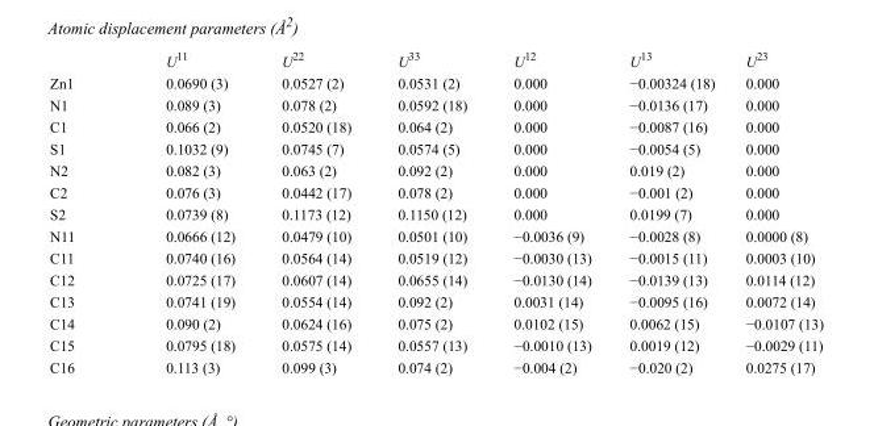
<table><thead><tr><td></td><td>U<sup>11</sup></td><td>U<sup>22</sup></td><td>U<sup>33</sup></td><td>U<sup>12</sup></td><td>U<sup>13</sup></td><td>U<sup>23</sup></td></tr></thead><tbody><tr><td>Zn1</td><td>0.0690 (3)</td><td>0.0527 (2)</td><td>0.0531 (2)</td><td>0.000</td><td>−0.00324 (18)</td><td>0.000</td></tr><tr><td>N1</td><td>0.089 (3)</td><td>0.078 (2)</td><td>0.0592 (18)</td><td>0.000</td><td>−0.0136 (17)</td><td>0.000</td></tr><tr><td>C1</td><td>0.066 (2)</td><td>0.0520 (18)</td><td>0.064 (2)</td><td>0.000</td><td>−0.0087 (16)</td><td>0.000</td></tr><tr><td>S1</td><td>0.1032 (9)</td><td>0.0745 (7)</td><td>0.0574 (5)</td><td>0.000</td><td>−0.0054 (5)</td><td>0.000</td></tr><tr><td>N2</td><td>0.082 (3)</td><td>0.063 (2)</td><td>0.092 (2)</td><td>0.000</td><td>0.019 (2)</td><td>0.000</td></tr><tr><td>C2</td><td>0.076 (3)</td><td>0.0442 (17)</td><td>0.078 (2)</td><td>0.000</td><td>−0.001 (2)</td><td>0.000</td></tr><tr><td>S2</td><td>0.0739 (8)</td><td>0.1173 (12)</td><td>0.1150 (12)</td><td>0.000</td><td>0.0199 (7)</td><td>0.000</td></tr><tr><td>N11</td><td>0.0666 (12)</td><td>0.0479 (10)</td><td>0.0501 (10)</td><td>−0.0036 (9)</td><td>−0.0028 (8)</td><td>0.0000 (8)</td></tr><tr><td>C11</td><td>0.0740 (16)</td><td>0.0564 (14)</td><td>0.0519 (12)</td><td>−0.0030 (13)</td><td>−0.0015 (11)</td><td>0.0003 (10)</td></tr><tr><td>C12</td><td>0.0725 (17)</td><td>0.0607 (14)</td><td>0.0655 (14)</td><td>−0.0130 (14)</td><td>−0.0139 (13)</td><td>0.0114 (12)</td></tr><tr><td>C13</td><td>0.0741 (19)</td><td>0.0554 (14)</td><td>0.092 (2)</td><td>0.0031 (14)</td><td>−0.0095 (16)</td><td>0.0072 (14)</td></tr><tr><td>C14</td><td>0.090 (2)</td><td>0.0624 (16)</td><td>0.075 (2)</td><td>0.0102 (15)</td><td>0.0062 (15)</td><td>−0.0107 (13)</td></tr><tr><td>C15</td><td>0.0795 (18)</td><td>0.0575 (14)</td><td>0.0557 (13)</td><td>−0.0010 (13)</td><td>0.0019 (12)</td><td>−0.0029 (11)</td></tr><tr><td>C16</td><td>0.113 (3)</td><td>0.099 (3)</td><td>0.074 (2)</td><td>−0.004 (2)</td><td>−0.020 (2)</td><td>0.0275 (17)</td></tr></tbody></table>